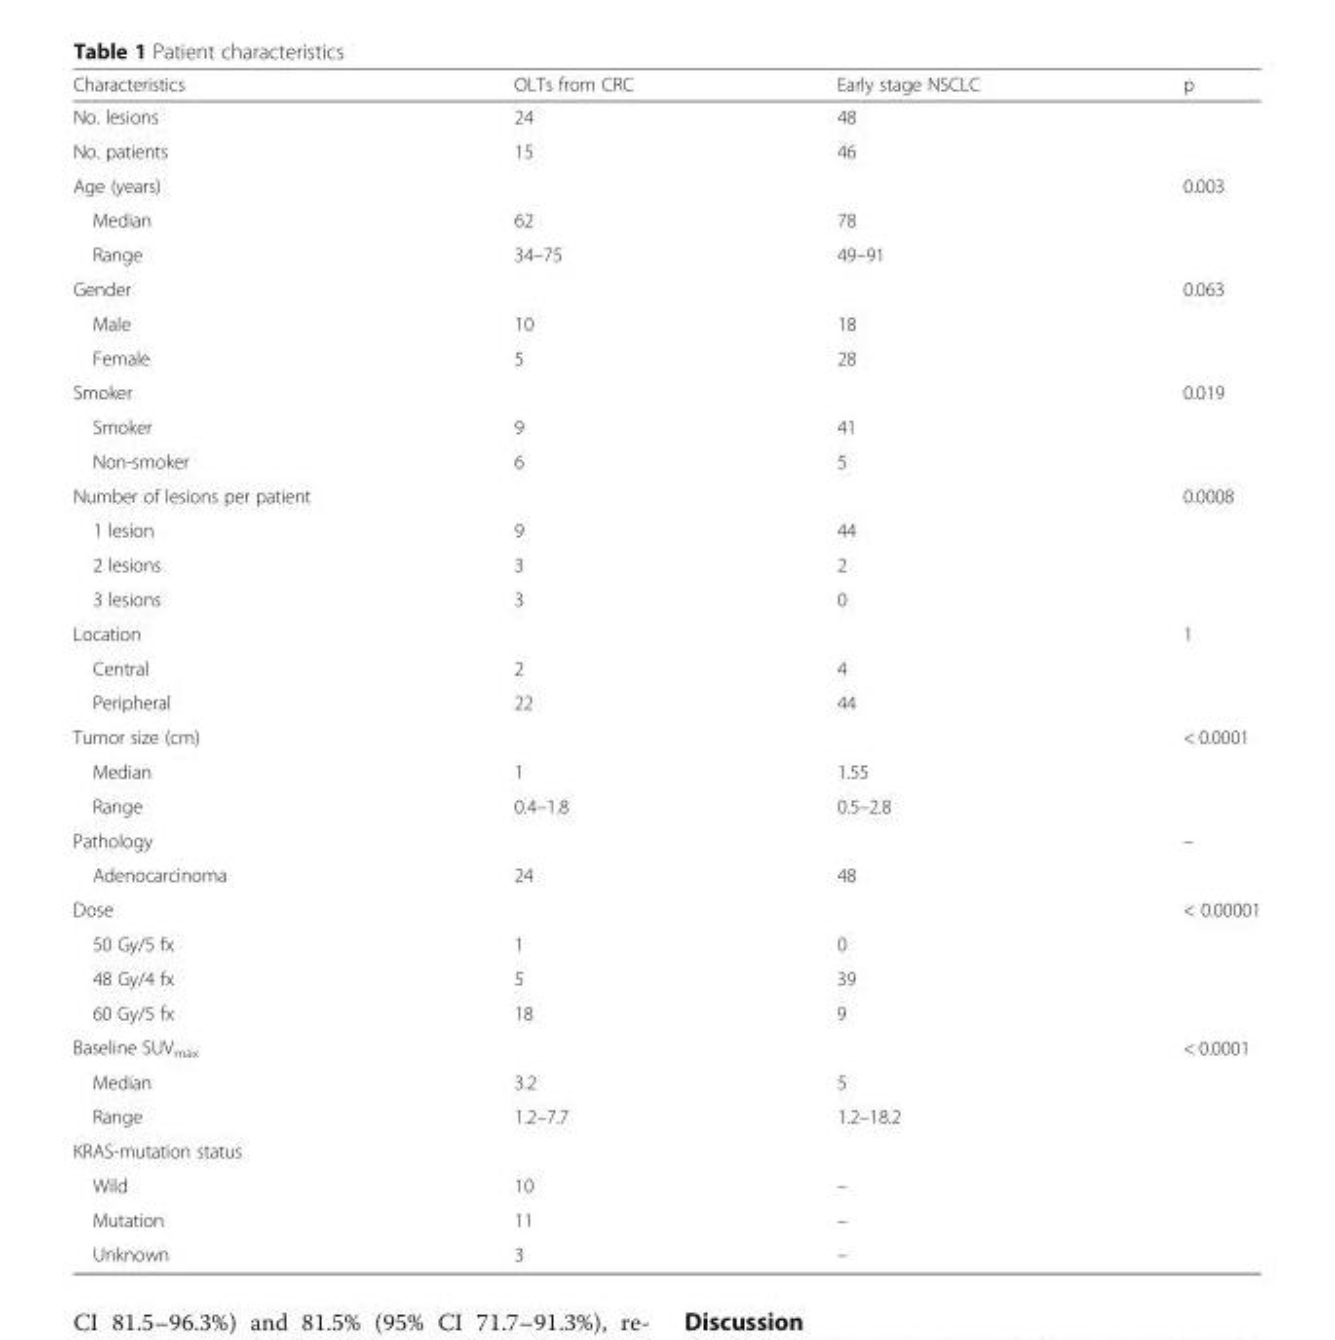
<table><thead><tr><td>Characteristics</td><td>OLTs from CRC</td><td>Early stage NSCLC</td><td>p</td></tr></thead><tbody><tr><td>No. lesions</td><td>24</td><td>48</td><td></td></tr><tr><td>No. patients</td><td>15</td><td>46</td><td></td></tr><tr><td>Age (years)</td><td></td><td></td><td>0.003</td></tr><tr><td>Median</td><td>62</td><td>78</td><td></td></tr><tr><td>Range</td><td>34–75</td><td>49–91</td><td></td></tr><tr><td>Gender</td><td></td><td></td><td>0.063</td></tr><tr><td>Male</td><td>10</td><td>18</td><td></td></tr><tr><td>Female</td><td>5</td><td>28</td><td></td></tr><tr><td>Smoker</td><td></td><td></td><td>0.019</td></tr><tr><td>Smoker</td><td>9</td><td>41</td><td></td></tr><tr><td>Non-smoker</td><td>6</td><td>5</td><td></td></tr><tr><td>Number of lesions per patient</td><td></td><td></td><td>0.0008</td></tr><tr><td>1 lesion</td><td>9</td><td>44</td><td></td></tr><tr><td>2 lesions</td><td>3</td><td>2</td><td></td></tr><tr><td>3 lesions</td><td>3</td><td>0</td><td></td></tr><tr><td>Location</td><td></td><td></td><td>1</td></tr><tr><td>Central</td><td>2</td><td>4</td><td></td></tr><tr><td>Peripheral</td><td>22</td><td>44</td><td></td></tr><tr><td>Tumor size (cm)</td><td></td><td></td><td>&lt; 0.0001</td></tr><tr><td>Median</td><td>1</td><td>1.55</td><td></td></tr><tr><td>Range</td><td>0.4–1.8</td><td>0.5–2.8</td><td></td></tr><tr><td>Pathology</td><td></td><td></td><td>–</td></tr><tr><td>Adenocarcinoma</td><td>24</td><td>48</td><td></td></tr><tr><td>Dose</td><td></td><td></td><td>&lt; 0.00001</td></tr><tr><td>50 Gy/5 fx</td><td>1</td><td>0</td><td></td></tr><tr><td>48 Gy/4 fx</td><td>5</td><td>39</td><td></td></tr><tr><td>60 Gy/5 fx</td><td>18</td><td>9</td><td></td></tr><tr><td>Baseline SUV<sub>max</sub></td><td></td><td></td><td>&lt; 0.0001</td></tr><tr><td>Median</td><td>3.2</td><td>5</td><td></td></tr><tr><td>Range</td><td>1.2–7.7</td><td>1.2–18.2</td><td></td></tr><tr><td colspan="4">KRAS-mutation status</td></tr><tr><td>Wild</td><td>10</td><td>–</td><td></td></tr><tr><td>Mutation</td><td>11</td><td>–</td><td></td></tr><tr><td>Unknown</td><td>3</td><td>–</td><td></td></tr></tbody></table>